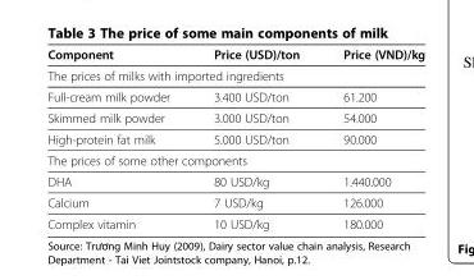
<table><thead><tr><td>Component</td><td>Price (USD)/ton</td><td>Price (VND)/kg</td></tr></thead><tbody><tr><td colspan="3">The prices of milks with imported ingredients</td></tr><tr><td>Full-cream milk powder</td><td>3.400 USD/ton</td><td>61.200</td></tr><tr><td>Skimmed milk powder</td><td>3.000 USD/ton</td><td>54.000</td></tr><tr><td>High-protein fat milk</td><td>5.000 USD/ton</td><td>90.000</td></tr><tr><td colspan="3">The prices of some other components</td></tr><tr><td>DHA</td><td>80 USD/kg</td><td>1.440.000</td></tr><tr><td>Calcium</td><td>7 USD/kg</td><td>126.000</td></tr><tr><td>Complex vitamin</td><td>10 USD/kg</td><td>180.000</td></tr></tbody></table>